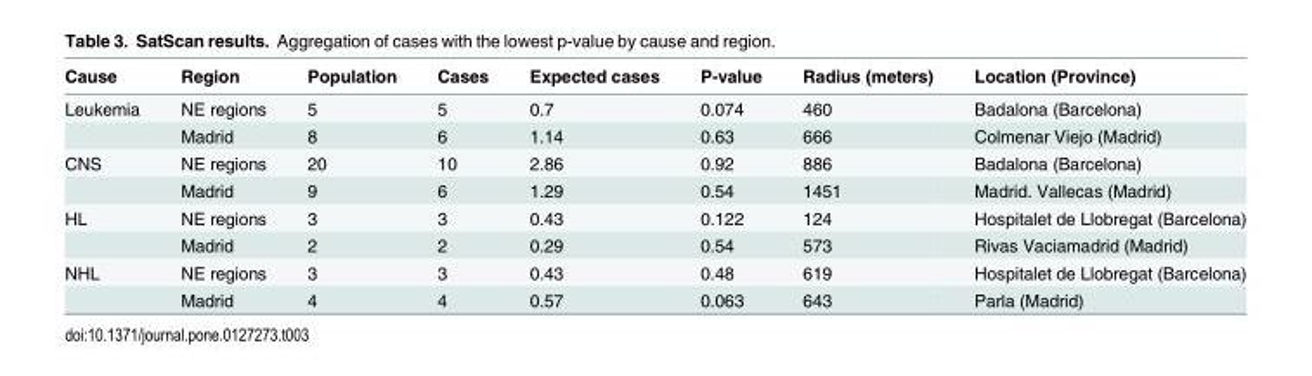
<table><thead><tr><td>Cause</td><td>Region</td><td>Population</td><td>Cases</td><td>Expected cases</td><td>P-value</td><td>Radius (meters)</td><td>Location (Province)</td></tr></thead><tbody><tr><td rowspan="2">Leukemia</td><td>NE regions</td><td>5</td><td>5</td><td>0.7</td><td>0.074</td><td>460</td><td>Badalona (Barcelona)</td></tr><tr><td>Madrid</td><td>8</td><td>6</td><td>1.14</td><td>0.63</td><td>666</td><td>Colmenar Viejo (Madrid)</td></tr><tr><td rowspan="2">CNS</td><td>NE regions</td><td>20</td><td>10</td><td>2.86</td><td>0.92</td><td>886</td><td>Badalona (Barcelona)</td></tr><tr><td>Madrid</td><td>9</td><td>6</td><td>1.29</td><td>0.54</td><td>1451</td><td>Madrid. Vallecas (Madrid)</td></tr><tr><td rowspan="2">HL</td><td>NE regions</td><td>3</td><td>3</td><td>0.43</td><td>0.122</td><td>124</td><td>Hospitalet de Llobregat (Barcelona)</td></tr><tr><td>Madrid</td><td>2</td><td>2</td><td>0.29</td><td>0.54</td><td>573</td><td>Rivas Vaciamadrid (Madrid)</td></tr><tr><td rowspan="2">NHL</td><td>NE regions</td><td>3</td><td>3</td><td>0.43</td><td>0.48</td><td>619</td><td>Hospitalet de Llobregat (Barcelona)</td></tr><tr><td>Madrid</td><td>4</td><td>4</td><td>0.57</td><td>0.063</td><td>643</td><td>Parla (Madrid)</td></tr></tbody></table>